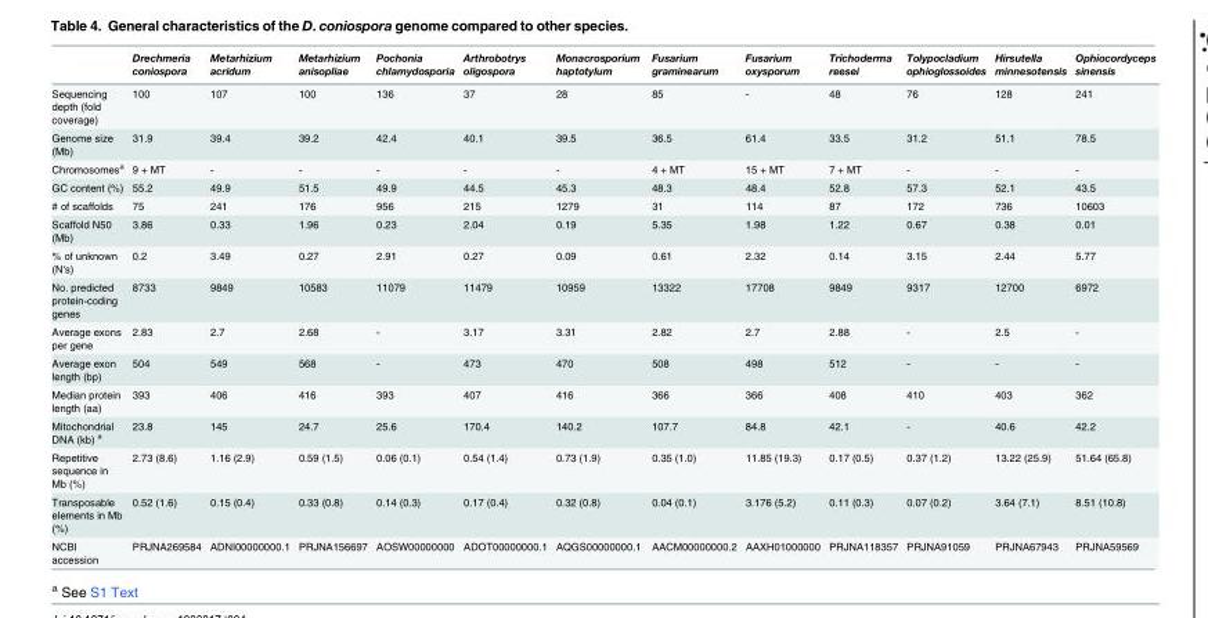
<table><thead><tr><td></td><td>Drechmeria coniospora</td><td>Metarhizium acridum</td><td>Metarhizium anisopliae</td><td>Pochonia chlamydosporia</td><td>Arthrobotrys oligospora</td><td>Monacrosporium haptotylum</td><td>Fusarium graminearum</td><td>Fusarium oxysporum</td><td>Trichoderma reesei</td><td>Tolypocladium ophioglossoides</td><td>Hirsutella minnesotensis</td><td>Ophiocordyceps sinensis</td></tr></thead><tbody><tr><td>Sequencing depth (fold coverage)</td><td>100</td><td>107</td><td>100</td><td>136</td><td>37</td><td>28</td><td>85</td><td>-</td><td>48</td><td>76</td><td>128</td><td>241</td></tr><tr><td>Genome size (Mb)</td><td>31.9</td><td>39.4</td><td>39.2</td><td>42.4</td><td>40.1</td><td>39.5</td><td>36.5</td><td>61.4</td><td>33.5</td><td>31.2</td><td>51.1</td><td>78.5</td></tr><tr><td>Chromosomes<sup>a</sup></td><td>9 + MT</td><td>-</td><td>-</td><td>-</td><td>-</td><td>-</td><td>4 + MT</td><td>15 + MT</td><td>7 + MT</td><td>-</td><td>-</td><td>-</td></tr><tr><td>GC content (%)</td><td>55.2</td><td>49.9</td><td>51.5</td><td>49.9</td><td>44.5</td><td>45.3</td><td>48.3</td><td>48.4</td><td>52.8</td><td>57.3</td><td>52.1</td><td>43.5</td></tr><tr><td># of scaffolds</td><td>75</td><td>241</td><td>176</td><td>956</td><td>215</td><td>1279</td><td>31</td><td>114</td><td>87</td><td>172</td><td>736</td><td>10603</td></tr><tr><td>Scaffold N50 (Mb)</td><td>3.86</td><td>0.33</td><td>1.96</td><td>0.23</td><td>2.04</td><td>0.19</td><td>5.35</td><td>1.98</td><td>1.22</td><td>0.67</td><td>0.38</td><td>0.01</td></tr><tr><td>% of unknown (N&#x27;s)</td><td>0.2</td><td>3.49</td><td>0.27</td><td>2.91</td><td>0.27</td><td>0.09</td><td>0.61</td><td>2.32</td><td>0.14</td><td>3.15</td><td>2.44</td><td>5.77</td></tr><tr><td>No. predicted protein-coding genes</td><td>8733</td><td>9849</td><td>10583</td><td>11079</td><td>11479</td><td>10959</td><td>13322</td><td>17708</td><td>9849</td><td>9317</td><td>12700</td><td>6972</td></tr><tr><td>Average exons per gene</td><td>2.83</td><td>2.7</td><td>2.68</td><td>-</td><td>3.17</td><td>3.31</td><td>2.82</td><td>2.7</td><td>2.88</td><td>-</td><td>2.5</td><td>-</td></tr><tr><td>Average exon length (bp)</td><td>504</td><td>549</td><td>568</td><td>-</td><td>473</td><td>470</td><td>508</td><td>498</td><td>512</td><td>-</td><td>-</td><td>-</td></tr><tr><td>Median protein length (aa)</td><td>393</td><td>406</td><td>416</td><td>393</td><td>407</td><td>416</td><td>366</td><td>366</td><td>408</td><td>410</td><td>403</td><td>362</td></tr><tr><td>Mitochondrial DNA (kb) <sup>a</sup></td><td>23.8</td><td>145</td><td>24.7</td><td>25.6</td><td>170.4</td><td>140.2</td><td>107.7</td><td>84.8</td><td>42.1</td><td>-</td><td>40.6</td><td>42.2</td></tr><tr><td>Repetitive sequence in Mb (%)</td><td>2.73 (8.6)</td><td>1.16 (2.9)</td><td>0.59 (1.5)</td><td>0.06 (0.1)</td><td>0.54 (1.4)</td><td>0.73 (1.9)</td><td>0.35 (1.0)</td><td>11.85 (19.3)</td><td>0.17 (0.5)</td><td>0.37 (1.2)</td><td>13.22 (25.9)</td><td>51.64 (65.8)</td></tr><tr><td>Transposable elements in Mb (%)</td><td>0.52 (1.6)</td><td>0.15 (0.4)</td><td>0.33 (0.8)</td><td>0.14 (0.3)</td><td>0.17 (0.4)</td><td>0.32 (0.8)</td><td>0.04 (0.1)</td><td>3.176 (5.2)</td><td>0.11 (0.3)</td><td>0.07 (0.2)</td><td>3.64 (7.1)</td><td>8.51 (10.8)</td></tr><tr><td>NCBI accession</td><td>PRJNA269584</td><td>ADNI00000000.1</td><td>PRJNA156697</td><td>AOSW00000000</td><td>ADOT00000000.1</td><td>AQGS00000000.1</td><td>AACM00000000.2</td><td>AAXH01000000</td><td>PRJNA118357</td><td>PRJNA91059</td><td>PRJNA67943</td><td>PRJNA59569</td></tr></tbody></table>